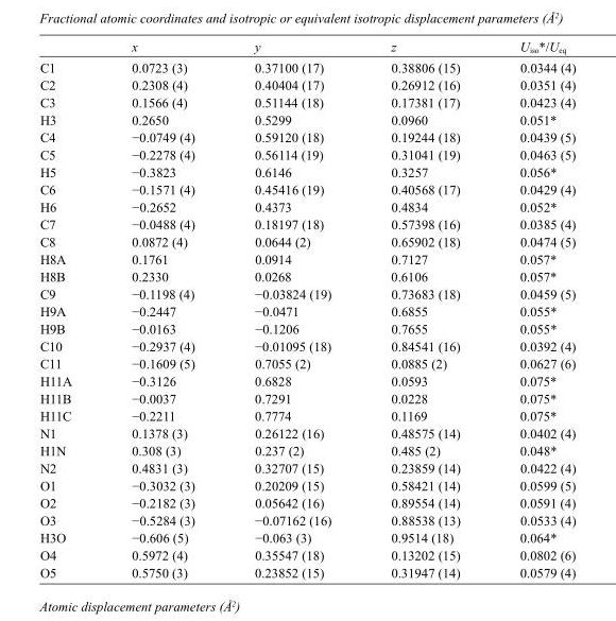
<table><thead><tr><td></td><td>x</td><td>y</td><td>z</td><td>U<sub>iso</sub>*/U<sub>eq</sub></td></tr></thead><tbody><tr><td>C1</td><td>0.0723 (3)</td><td>0.37100 (17)</td><td>0.38806 (15)</td><td>0.0344 (4)</td></tr><tr><td>C2</td><td>0.2308 (4)</td><td>0.40404 (17)</td><td>0.26912 (16)</td><td>0.0351 (4)</td></tr><tr><td>C3</td><td>0.1566 (4)</td><td>0.51144 (18)</td><td>0.17381 (17)</td><td>0.0423 (4)</td></tr><tr><td>H3</td><td>0.2650</td><td>0.5299</td><td>0.0960</td><td>0.051*</td></tr><tr><td>C4</td><td>−0.0749 (4)</td><td>0.59120 (18)</td><td>0.19244 (18)</td><td>0.0439 (5)</td></tr><tr><td>C5</td><td>−0.2278 (4)</td><td>0.56114 (19)</td><td>0.31041 (19)</td><td>0.0463 (5)</td></tr><tr><td>H5</td><td>−0.3823</td><td>0.6146</td><td>0.3257</td><td>0.056*</td></tr><tr><td>C6</td><td>−0.1571 (4)</td><td>0.45416 (19)</td><td>0.40568 (17)</td><td>0.0429 (4)</td></tr><tr><td>H6</td><td>−0.2652</td><td>0.4373</td><td>0.4834</td><td>0.052*</td></tr><tr><td>C7</td><td>−0.0488 (4)</td><td>0.18197 (18)</td><td>0.57398 (16)</td><td>0.0385 (4)</td></tr><tr><td>C8</td><td>0.0872 (4)</td><td>0.0644 (2)</td><td>0.65902 (18)</td><td>0.0474 (5)</td></tr><tr><td>H8A</td><td>0.1761</td><td>0.0914</td><td>0.7127</td><td>0.057*</td></tr><tr><td>H8B</td><td>0.2330</td><td>0.0268</td><td>0.6106</td><td>0.057*</td></tr><tr><td>C9</td><td>−0.1198 (4)</td><td>−0.03824 (19)</td><td>0.73683 (18)</td><td>0.0459 (5)</td></tr><tr><td>H9A</td><td>−0.2447</td><td>−0.0471</td><td>0.6855</td><td>0.055*</td></tr><tr><td>H9B</td><td>−0.0163</td><td>−0.1206</td><td>0.7655</td><td>0.055*</td></tr><tr><td>C10</td><td>−0.2937 (4)</td><td>−0.01095 (18)</td><td>0.84541 (16)</td><td>0.0392 (4)</td></tr><tr><td>C11</td><td>−0.1609 (5)</td><td>0.7055 (2)</td><td>0.0885 (2)</td><td>0.0627 (6)</td></tr><tr><td>H11A</td><td>−0.3126</td><td>0.6828</td><td>0.0593</td><td>0.075*</td></tr><tr><td>H11B</td><td>−0.0037</td><td>0.7291</td><td>0.0228</td><td>0.075*</td></tr><tr><td>H11C</td><td>−0.2211</td><td>0.7774</td><td>0.1169</td><td>0.075*</td></tr><tr><td>N1</td><td>0.1378 (3)</td><td>0.26122 (16)</td><td>0.48575 (14)</td><td>0.0402 (4)</td></tr><tr><td>H1N</td><td>0.308 (3)</td><td>0.237 (2)</td><td>0.485 (2)</td><td>0.048*</td></tr><tr><td>N2</td><td>0.4831 (3)</td><td>0.32707 (15)</td><td>0.23859 (14)</td><td>0.0422 (4)</td></tr><tr><td>O1</td><td>−0.3032 (3)</td><td>0.20209 (15)</td><td>0.58421 (14)</td><td>0.0599 (5)</td></tr><tr><td>O2</td><td>−0.2182 (3)</td><td>0.05642 (16)</td><td>0.89554 (14)</td><td>0.0591 (4)</td></tr><tr><td>O3</td><td>−0.5284 (3)</td><td>−0.07162 (16)</td><td>0.88538 (13)</td><td>0.0533 (4)</td></tr><tr><td>H3O</td><td>−0.606 (5)</td><td>−0.063 (3)</td><td>0.9514 (18)</td><td>0.064*</td></tr><tr><td>O4</td><td>0.5972 (4)</td><td>0.35547 (18)</td><td>0.13202 (15)</td><td>0.0802 (6)</td></tr><tr><td>O5</td><td>0.5750 (3)</td><td>0.23852 (15)</td><td>0.31947 (14)</td><td>0.0579 (4)</td></tr></tbody></table>